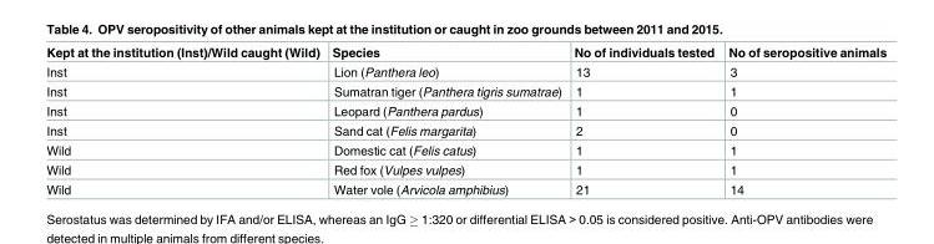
<table><thead><tr><td>Kept at the institution (Inst)/Wild caught (Wild)</td><td>Species</td><td>No of individuals tested</td><td>No of seropositive animals</td></tr></thead><tbody><tr><td>Inst</td><td>Lion (Panthera leo)</td><td>13</td><td>3</td></tr><tr><td>Inst</td><td>Sumatran tiger (Panthera tigris sumatrae)</td><td>1</td><td>1</td></tr><tr><td>Inst</td><td>Leopard (Panthera pardus)</td><td>1</td><td>0</td></tr><tr><td>Inst</td><td>Sand cat (Felis margarita)</td><td>2</td><td>0</td></tr><tr><td>Wild</td><td>Domestic cat (Felis catus)</td><td>1</td><td>1</td></tr><tr><td>Wild</td><td>Red fox (Vulpes vulpes)</td><td>1</td><td>1</td></tr><tr><td>Wild</td><td>Water vole (Arvicola amphibius)</td><td>21</td><td>14</td></tr></tbody></table>